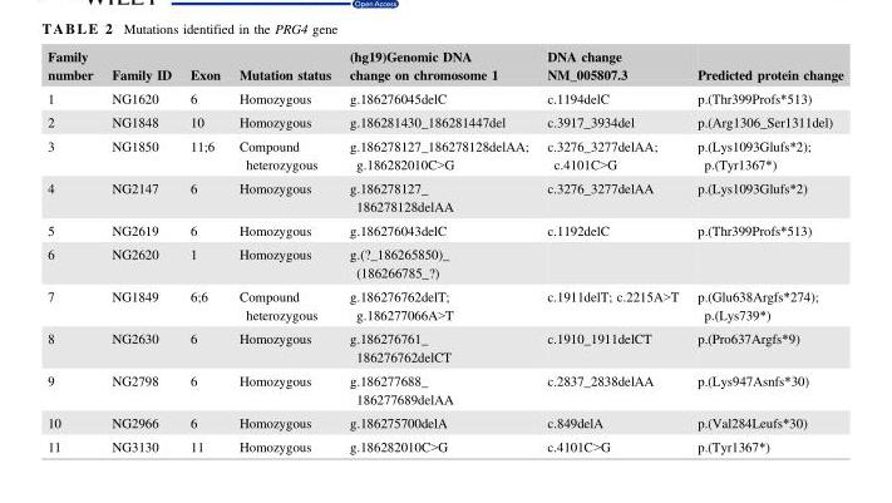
<table><thead><tr><td>Family number</td><td>Family ID</td><td>Exon</td><td>Mutation status</td><td>(hg19)Genomic DNA change on chromosome 1</td><td>DNA change NM_005807.3</td><td>Predicted protein change</td></tr></thead><tbody><tr><td>1</td><td>NG1620</td><td>6</td><td>Homozygous</td><td>g.186276045delC</td><td>c.1194delC</td><td>p.(Thr399Profs*513)</td></tr><tr><td>2</td><td>NG1848</td><td>10</td><td>Homozygous</td><td>g.186281430_186281447del</td><td>c.3917_3934del</td><td>p.(Arg1306_Ser1311del)</td></tr><tr><td>3</td><td>NG1850</td><td>11;6</td><td>Compound heterozygous</td><td>g.186278127_186278128delAA; g.186282010C&gt;G</td><td>c.3276_3277delAA; c.4101C&gt;G</td><td>p.(Lys1093Glufs*2); p.(Tyr1367*)</td></tr><tr><td>4</td><td>NG2147</td><td>6</td><td>Homozygous</td><td>g.186278127_ 186278128delAA</td><td>c.3276_3277delAA</td><td>p.(Lys1093Glufs*2)</td></tr><tr><td>5</td><td>NG2619</td><td>6</td><td>Homozygous</td><td>g.186276043delC</td><td>c.1192delC</td><td>p.(Thr399Profs*513)</td></tr><tr><td>6</td><td>NG2620</td><td>1</td><td>Homozygous</td><td>g.(?_186265850)_ (186266785_?)</td><td></td><td></td></tr><tr><td>7</td><td>NG1849</td><td>6;6</td><td>Compound heterozygous</td><td>g.186276762delT; g.186277066A&gt;T</td><td>c.1911delT; c.2215A&gt;T</td><td>p.(Glu638Argfs*274); p.(Lys739*)</td></tr><tr><td>8</td><td>NG2630</td><td>6</td><td>Homozygous</td><td>g.186276761_ 186276762delCT</td><td>c.1910_1911delCT</td><td>p.(Pro637Argfs*9)</td></tr><tr><td>9</td><td>NG2798</td><td>6</td><td>Homozygous</td><td>g.186277688_ 186277689delAA</td><td>c.2837_2838delAA</td><td>p.(Lys947Asnfs*30)</td></tr><tr><td>10</td><td>NG2966</td><td>6</td><td>Homozygous</td><td>g.186275700delA</td><td>c.849delA</td><td>p.(Val284Leufs*30)</td></tr><tr><td>11</td><td>NG3130</td><td>11</td><td>Homozygous</td><td>g.186282010C&gt;G</td><td>c.4101C&gt;G</td><td>p.(Tyr1367*)</td></tr></tbody></table>